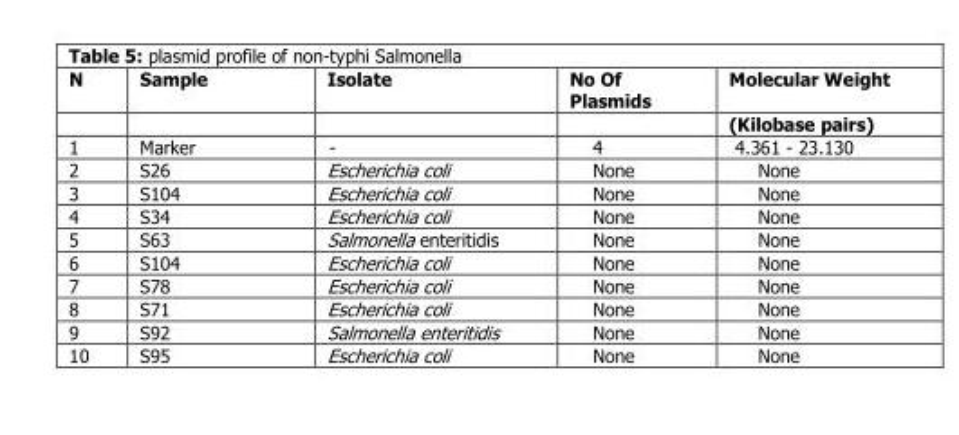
<table><thead><tr><td rowspan="2">N</td><td rowspan="2">Sample</td><td rowspan="2">Isolate</td><td rowspan="2">No Of Plasmids</td><td rowspan="2">Molecular Weight (Kilobase pairs)</td></tr><tr></tr></thead><tbody><tr><td>1</td><td>Marker</td><td>-</td><td>4</td><td>4.361 - 23.130</td></tr><tr><td>2</td><td>S26</td><td>Escherichia coli</td><td>None</td><td>None</td></tr><tr><td>3</td><td>S104</td><td>Escherichia coli</td><td>None</td><td>None</td></tr><tr><td>4</td><td>S34</td><td>Escherichia coli</td><td>None</td><td>None</td></tr><tr><td>5</td><td>S63</td><td>Salmonella enteritidis</td><td>None</td><td>None</td></tr><tr><td>6</td><td>S104</td><td>Escherichia coli</td><td>None</td><td>None</td></tr><tr><td>7</td><td>S78</td><td>Escherichia coli</td><td>None</td><td>None</td></tr><tr><td>8</td><td>S71</td><td>Escherichia coli</td><td>None</td><td>None</td></tr><tr><td>9</td><td>S92</td><td>Salmonella enteritidis</td><td>None</td><td>None</td></tr><tr><td>10</td><td>S95</td><td>Escherichia coli</td><td>None</td><td>None</td></tr></tbody></table>